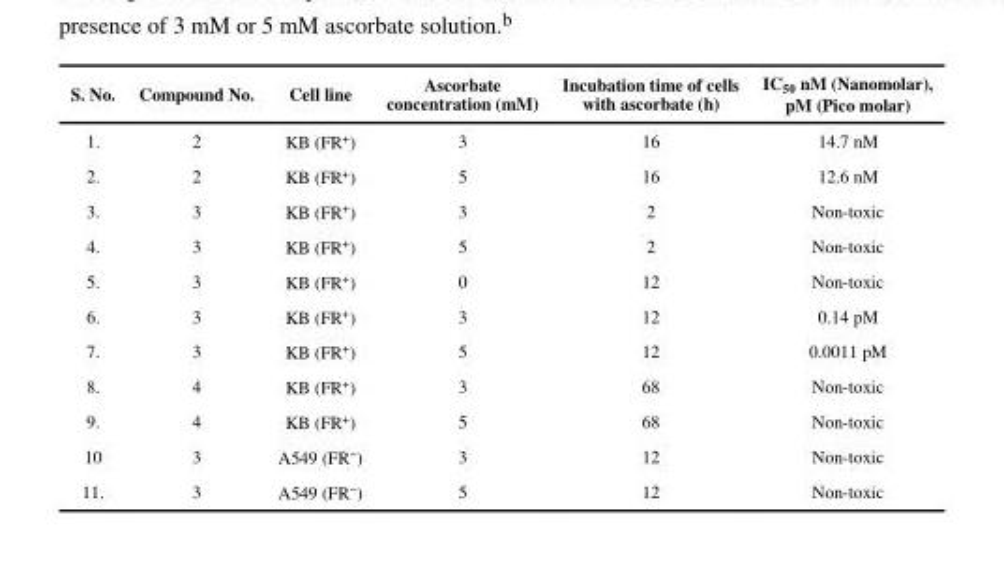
<table><thead><tr><td>S. No.</td><td>Compound No.</td><td>Cell line</td><td>Ascorbate concentration (mM)</td><td>Incubation time of cells with ascorbate (h)</td><td>IC<sub>50</sub> nM (Nanomolar), pM (Pico molar)</td></tr></thead><tbody><tr><td>1.</td><td>2</td><td>KB (FR<sup>+</sup>)</td><td>3</td><td>16</td><td>14.7 nM</td></tr><tr><td>2.</td><td>2</td><td>KB (FR<sup>+</sup>)</td><td>5</td><td>16</td><td>12.6 nM</td></tr><tr><td>3.</td><td>3</td><td>KB (FR<sup>+</sup>)</td><td>3</td><td>2</td><td>Non-toxic</td></tr><tr><td>4.</td><td>3</td><td>KB (FR<sup>+</sup>)</td><td>5</td><td>2</td><td>Non-toxic</td></tr><tr><td>5.</td><td>3</td><td>KB (FR<sup>+</sup>)</td><td>0</td><td>12</td><td>Non-toxic</td></tr><tr><td>6.</td><td>3</td><td>KB (FR<sup>+</sup>)</td><td>3</td><td>12</td><td>0.14 pM</td></tr><tr><td>7.</td><td>3</td><td>KB (FR<sup>+</sup>)</td><td>5</td><td>12</td><td>0.0011 pM</td></tr><tr><td>8.</td><td>4</td><td>KB (FR<sup>+</sup>)</td><td>3</td><td>68</td><td>Non-toxic</td></tr><tr><td>9.</td><td>4</td><td>KB (FR<sup>+</sup>)</td><td>5</td><td>68</td><td>Non-toxic</td></tr><tr><td>10</td><td>3</td><td>A549 (FR<sup>−</sup>)</td><td>3</td><td>12</td><td>Non-toxic</td></tr><tr><td>11.</td><td>3</td><td>A549 (FR<sup>−</sup>)</td><td>5</td><td>12</td><td>Non-toxic</td></tr></tbody></table>